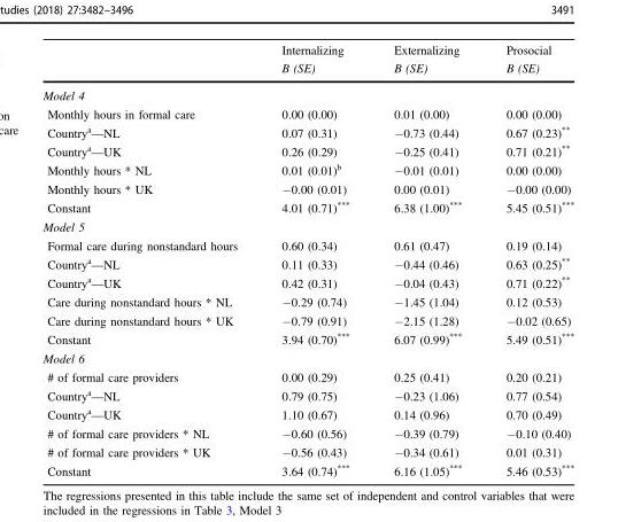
<table><thead><tr><td rowspan="2"></td><td rowspan="2">Internalizing B (SE)</td><td rowspan="2">Externalizing B (SE)</td><td rowspan="2">Prosocial B (SE)</td></tr><tr></tr></thead><tbody><tr><td colspan="4">Model 4</td></tr><tr><td>Monthly hours in formal care</td><td>0.00 (0.00)</td><td>0.01 (0.00)</td><td>0.00 (0.00)</td></tr><tr><td>Country<sup>a</sup>—NL</td><td>0.07 (0.31)</td><td>−0.73 (0.44)</td><td>0.67 (0.23)**</td></tr><tr><td>Country<sup>a</sup>—UK</td><td>0.26 (0.29)</td><td>−0.25 (0.41)</td><td>0.71 (0.21)**</td></tr><tr><td>Monthly hours * NL</td><td>0.01 (0.01)<sup>b</sup></td><td>−0.01 (0.01)</td><td>0.00 (0.00)</td></tr><tr><td>Monthly hours * UK</td><td>−0.00 (0.01)</td><td>0.00 (0.01)</td><td>−0.00 (0.00)</td></tr><tr><td>Constant</td><td>4.01 (0.71)***</td><td>6.38 (1.00)***</td><td>5.45 (0.51)***</td></tr><tr><td colspan="4">Model 5</td></tr><tr><td>Formal care during nonstandard hours</td><td>0.60 (0.34)</td><td>0.61 (0.47)</td><td>0.19 (0.14)</td></tr><tr><td>Country<sup>a</sup>—NL</td><td>0.11 (0.33)</td><td>−0.44 (0.46)</td><td>0.63 (0.25)**</td></tr><tr><td>Country<sup>a</sup>—UK</td><td>0.42 (0.31)</td><td>−0.04 (0.43)</td><td>0.71 (0.22)**</td></tr><tr><td>Care during nonstandard hours * NL</td><td>−0.29 (0.74)</td><td>−1.45 (1.04)</td><td>0.12 (0.53)</td></tr><tr><td>Care during nonstandard hours * UK</td><td>−0.79 (0.91)</td><td>−2.15 (1.28)</td><td>−0.02 (0.65)</td></tr><tr><td>Constant</td><td>3.94 (0.70)***</td><td>6.07 (0.99)***</td><td>5.49 (0.51)***</td></tr><tr><td colspan="4">Model 6</td></tr><tr><td># of formal care providers</td><td>0.00 (0.29)</td><td>0.25 (0.41)</td><td>0.20 (0.21)</td></tr><tr><td>Country<sup>a</sup>—NL</td><td>0.79 (0.75)</td><td>−0.23 (1.06)</td><td>0.77 (0.54)</td></tr><tr><td>Country<sup>a</sup>—UK</td><td>1.10 (0.67)</td><td>0.14 (0.96)</td><td>0.70 (0.49)</td></tr><tr><td># of formal care providers * NL</td><td>−0.60 (0.56)</td><td>−0.39 (0.79)</td><td>−0.10 (0.40)</td></tr><tr><td># of formal care providers * UK</td><td>−0.56 (0.43)</td><td>−0.34 (0.61)</td><td>0.01 (0.31)</td></tr><tr><td>Constant</td><td>3.64 (0.74)***</td><td>6.16 (1.05)***</td><td>5.46 (0.53)***</td></tr></tbody></table>